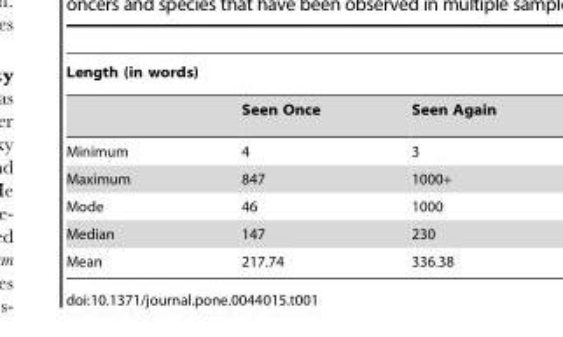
<table><thead><tr><td colspan="3">Length (in words)</td></tr><tr><td></td><td>Seen Once</td><td>Seen Again</td></tr></thead><tbody><tr><td>Minimum</td><td>4</td><td>3</td></tr><tr><td>Maximum</td><td>847</td><td>1000+</td></tr><tr><td>Mode</td><td>46</td><td>1000</td></tr><tr><td>Median</td><td>147</td><td>230</td></tr><tr><td>Mean</td><td>217.74</td><td>336.38</td></tr></tbody></table>